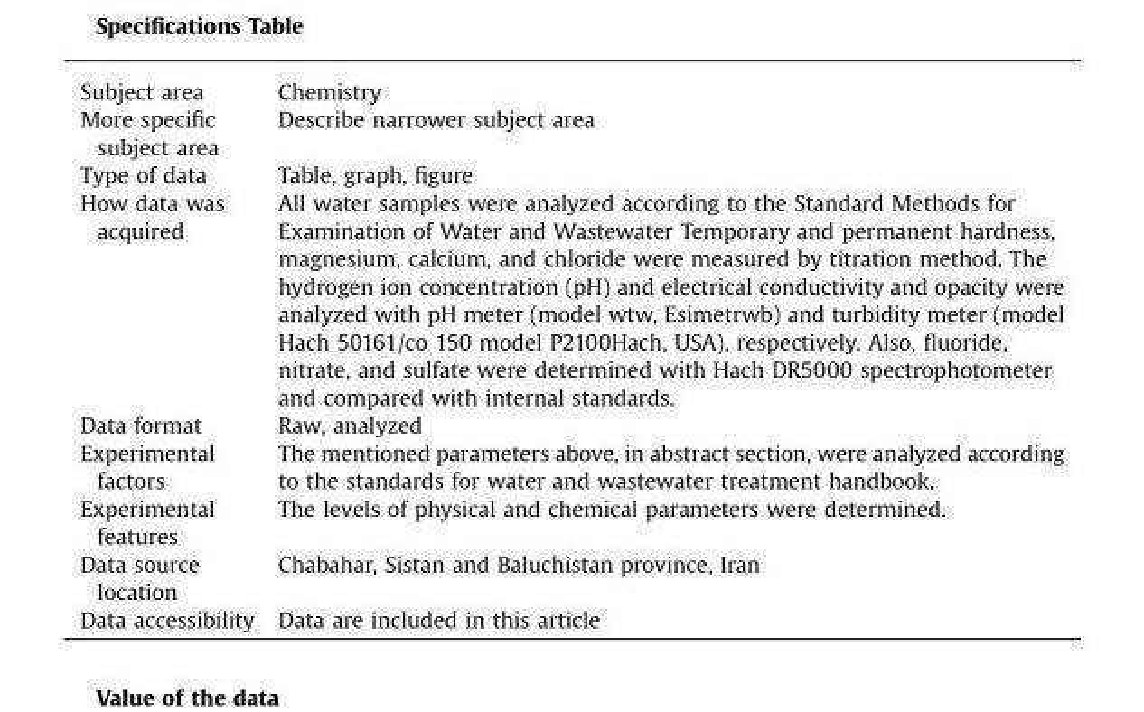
<table><tbody><tr><td>Subject area</td><td>Chemistry</td></tr><tr><td>More specific subject area</td><td>Describe narrower subject area</td></tr><tr><td>Type of data</td><td>Table, graph, figure</td></tr><tr><td>How data was acquired</td><td>All water samples were analyzed according to the Standard Methods for Examination of Water and Wastewater Temporary and permanent hardness, magnesium, calcium, and chloride were measured by titration method. The hydrogen ion concentration (pH) and electrical conductivity and opacity were analyzed with pH meter (model wtw, Esimetrwb) and turbidity meter (model Hach 50161/co 150 model P2100Hach, USA), respectively. Also, fluoride, nitrate, and sulfate were determined with Hach DR5000 spectrophotometer and compared with internal standards.</td></tr><tr><td>Data format</td><td>Raw, analyzed</td></tr><tr><td>Experimental factors</td><td>The mentioned parameters above, in abstract section, were analyzed according to the standards for water and wastewater treatment handbook.</td></tr><tr><td>Experimental features</td><td>The levels of physical and chemical parameters were determined.</td></tr><tr><td>Data source location</td><td>Chabahar, Sistan and Baluchistan province, Iran</td></tr><tr><td>Data accessibility</td><td>Data are included in this article</td></tr></tbody></table>